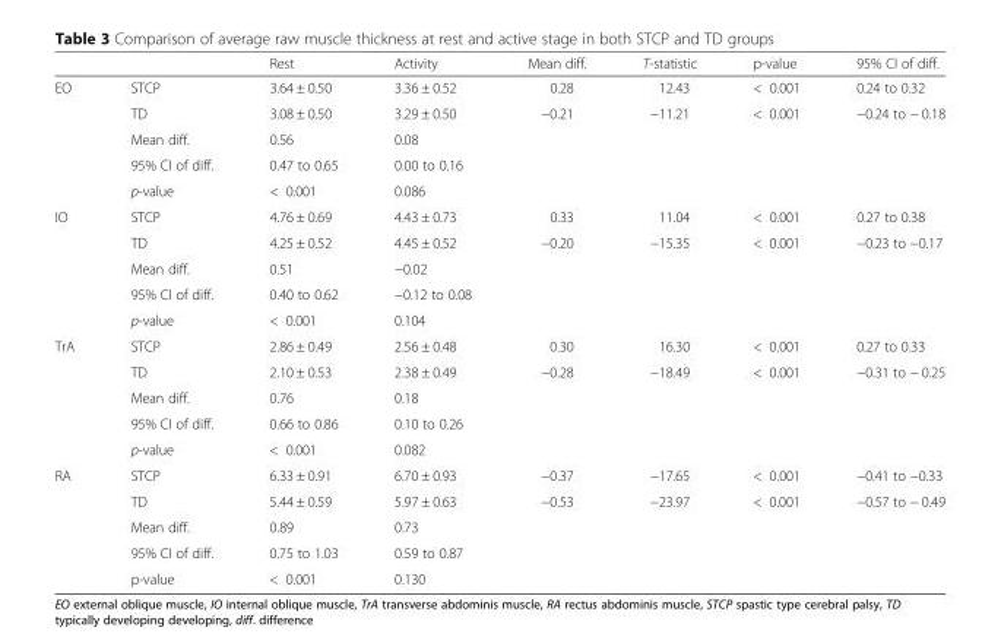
<table><thead><tr><td></td><td></td><td>Rest</td><td>Activity</td><td>Mean diff.</td><td>T-statistic</td><td>p-value</td><td>95% CI of diff.</td></tr></thead><tbody><tr><td rowspan="5">EO</td><td>STCP</td><td>3.64 ± 0.50</td><td>3.36 ± 0.52</td><td>0.28</td><td>12.43</td><td>&lt; 0.001</td><td>0.24 to 0.32</td></tr><tr><td>TD</td><td>3.08 ± 0.50</td><td>3.29 ± 0.50</td><td>−0.21</td><td>−11.21</td><td>&lt; 0.001</td><td>−0.24 to − 0.18</td></tr><tr><td>Mean diff.</td><td>0.56</td><td>0.08</td><td></td><td></td><td></td><td rowspan="3"></td></tr><tr><td>95% CI of diff.</td><td>0.47 to 0.65</td><td>0.00 to 0.16</td><td></td><td></td><td></td></tr><tr><td>p-value</td><td>&lt; 0.001</td><td>0.086</td><td></td><td></td><td></td></tr><tr><td rowspan="5">IO</td><td>STCP</td><td>4.76 ± 0.69</td><td>4.43 ± 0.73</td><td>0.33</td><td>11.04</td><td>&lt; 0.001</td><td>0.27 to 0.38</td></tr><tr><td>TD</td><td>4.25 ± 0.52</td><td>4.45 ± 0.52</td><td>−0.20</td><td>−15.35</td><td>&lt; 0.001</td><td>−0.23 to −0.17</td></tr><tr><td>Mean diff.</td><td>0.51</td><td>−0.02</td><td></td><td></td><td></td><td rowspan="3"></td></tr><tr><td>95% CI of diff.</td><td>0.40 to 0.62</td><td>−0.12 to 0.08</td><td></td><td></td><td></td></tr><tr><td>p-value</td><td>&lt; 0.001</td><td>0.104</td><td></td><td></td><td></td></tr><tr><td rowspan="5">TrA</td><td>STCP</td><td>2.86 ± 0.49</td><td>2.56 ± 0.48</td><td>0.30</td><td>16.30</td><td>&lt; 0.001</td><td>0.27 to 0.33</td></tr><tr><td>TD</td><td>2.10 ± 0.53</td><td>2.38 ± 0.49</td><td>−0.28</td><td>−18.49</td><td>&lt; 0.001</td><td>−0.31 to − 0.25</td></tr><tr><td>Mean diff.</td><td>0.76</td><td>0.18</td><td></td><td></td><td></td><td rowspan="3"></td></tr><tr><td>95% CI of diff.</td><td>0.66 to 0.86</td><td>0.10 to 0.26</td><td></td><td></td><td></td></tr><tr><td>p-value</td><td>&lt; 0.001</td><td>0.082</td><td></td><td></td><td></td></tr><tr><td rowspan="5">RA</td><td>STCP</td><td>6.33 ± 0.91</td><td>6.70 ± 0.93</td><td>−0.37</td><td>−17.65</td><td>&lt; 0.001</td><td>−0.41 to −0.33</td></tr><tr><td>TD</td><td>5.44 ± 0.59</td><td>5.97 ± 0.63</td><td>−0.53</td><td>−23.97</td><td>&lt; 0.001</td><td>−0.57 to − 0.49</td></tr><tr><td>Mean diff.</td><td>0.89</td><td>0.73</td><td></td><td></td><td></td><td rowspan="3"></td></tr><tr><td>95% CI of diff.</td><td>0.75 to 1.03</td><td>0.59 to 0.87</td><td></td><td></td><td></td></tr><tr><td>p-value</td><td>&lt; 0.001</td><td>0.130</td><td></td><td></td><td></td></tr></tbody></table>